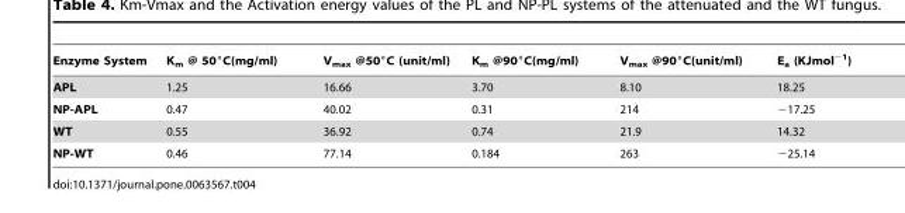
<table><thead><tr><td>Enzyme System</td><td>K<sub>m</sub> @ 50°C(mg/ml)</td><td>V<sub>max</sub> @50°C (unit/ml)</td><td>K<sub>m</sub> @90°C(mg/ml)</td><td>V<sub>max</sub> @90°C(unit/ml)</td><td>E<sub>a</sub> (KJmol<sup>−1</sup>)</td></tr></thead><tbody><tr><td>APL</td><td>1.25</td><td>16.66</td><td>3.70</td><td>8.10</td><td>18.25</td></tr><tr><td>NP-APL</td><td>0.47</td><td>40.02</td><td>0.31</td><td>214</td><td>−17.25</td></tr><tr><td>WT</td><td>0.55</td><td>36.92</td><td>0.74</td><td>21.9</td><td>14.32</td></tr><tr><td>NP-WT</td><td>0.46</td><td>77.14</td><td>0.184</td><td>263</td><td>−25.14</td></tr></tbody></table>